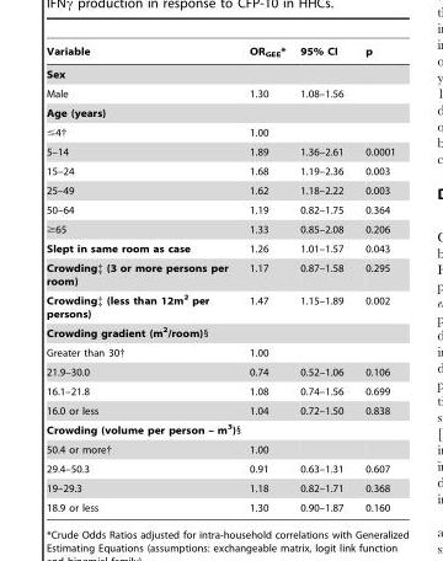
<table><thead><tr><td>Variable</td><td>OR<sub>GEE</sub>*</td><td>95% CI</td><td>p</td></tr></thead><tbody><tr><td colspan="4">Sex</td></tr><tr><td>Male</td><td>1.30</td><td>1.08–1.56</td><td></td></tr><tr><td colspan="4">Age (years)</td></tr><tr><td>≤4†</td><td>1.00</td><td></td><td></td></tr><tr><td>5–14</td><td>1.89</td><td>1.36–2.61</td><td>0.0001</td></tr><tr><td>15–24</td><td>1.68</td><td>1.19–2.36</td><td>0.003</td></tr><tr><td>25–49</td><td>1.62</td><td>1.18–2.22</td><td>0.003</td></tr><tr><td>50–64</td><td>1.19</td><td>0.82–1.75</td><td>0.364</td></tr><tr><td>≥65</td><td>1.33</td><td>0.85–2.08</td><td>0.206</td></tr><tr><td>Slept in same room as case</td><td>1.26</td><td>1.01–1.57</td><td>0.043</td></tr><tr><td>Crowding‡ (3 or more persons per room)</td><td>1.17</td><td>0.87–1.58</td><td>0.295</td></tr><tr><td>Crowding‡ (less than 12m<sup>2</sup> per persons)</td><td>1.47</td><td>1.15–1.89</td><td>0.002</td></tr><tr><td colspan="4">Crowding gradient (m<sup>2</sup>/room)§</td></tr><tr><td>Greater than 30†</td><td>1.00</td><td></td><td></td></tr><tr><td>21.9–30.0</td><td>0.74</td><td>0.52–1.06</td><td>0.106</td></tr><tr><td>16.1–21.8</td><td>1.08</td><td>0.74–1.56</td><td>0.699</td></tr><tr><td>16.0 or less</td><td>1.04</td><td>0.72–1.50</td><td>0.838</td></tr><tr><td colspan="4">Crowding (volume per person – m<sup>3</sup>)§</td></tr><tr><td>50.4 or more†</td><td>1.00</td><td></td><td></td></tr><tr><td>29.4–50.3</td><td>0.91</td><td>0.63–1.31</td><td>0.607</td></tr><tr><td>19–29.3</td><td>1.18</td><td>0.82–1.71</td><td>0.368</td></tr><tr><td>18.9 or less</td><td>1.30</td><td>0.90–1.87</td><td>0.160</td></tr></tbody></table>